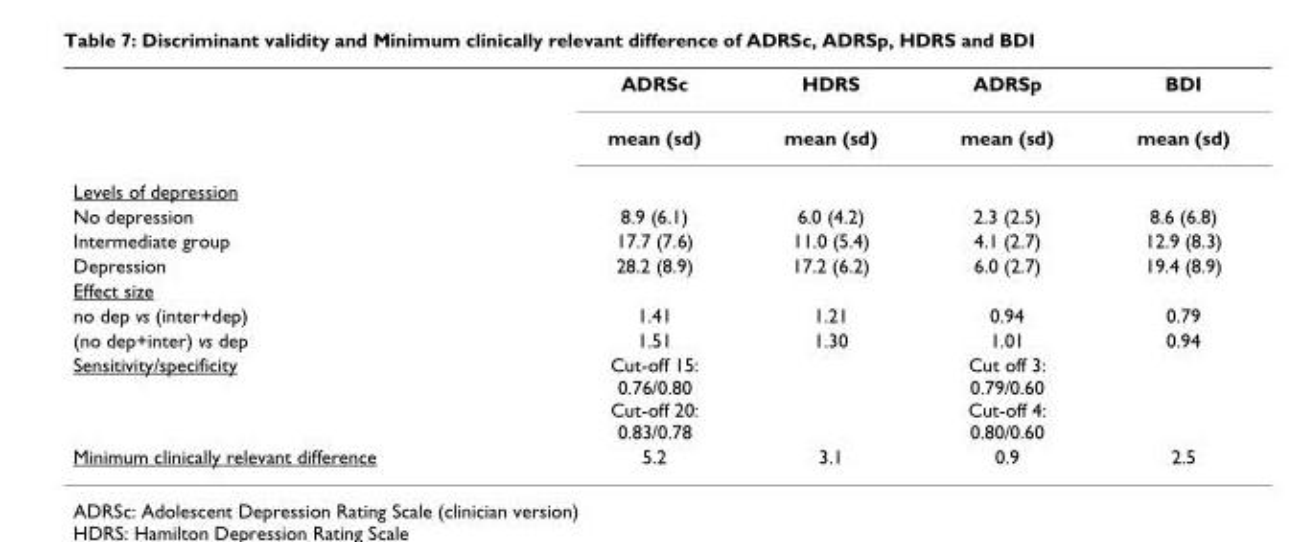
<table><thead><tr><td></td><td>ADRSc</td><td>HDRS</td><td>ADRSp</td><td>BDI</td></tr></thead><tbody><tr><td></td><td>mean (sd)</td><td>mean (sd)</td><td>mean (sd)</td><td>mean (sd)</td></tr><tr><td colspan="5">Levels of depression</td></tr><tr><td>No depression</td><td>8.9 (6.1)</td><td>6.0 (4.2)</td><td>2.3 (2.5)</td><td>8.6 (6.8)</td></tr><tr><td>Intermediate group</td><td>17.7 (7.6)</td><td>11.0 (5.4)</td><td>4.1 (2.7)</td><td>12.9 (8.3)</td></tr><tr><td>Depression</td><td>28.2 (8.9)</td><td>17.2 (6.2)</td><td>6.0 (2.7)</td><td>19.4 (8.9)</td></tr><tr><td colspan="5">Effect size</td></tr><tr><td>no dep vs (inter+dep)</td><td>1.41</td><td>1.21</td><td>0.94</td><td>0.79</td></tr><tr><td>(no dep+inter) vs dep</td><td>1.51</td><td>1.30</td><td>1.01</td><td>0.94</td></tr><tr><td>Sensitivity/specificity</td><td>Cut-off 15: 0.76/0.80 Cut-off 20: 0.83/0.78</td><td></td><td>Cut off 3: 0.79/0.60 Cut-off 4: 0.80/0.60</td><td></td></tr><tr><td>Minimum clinically relevant difference</td><td>5.2</td><td>3.1</td><td>0.9</td><td>2.5</td></tr></tbody></table>